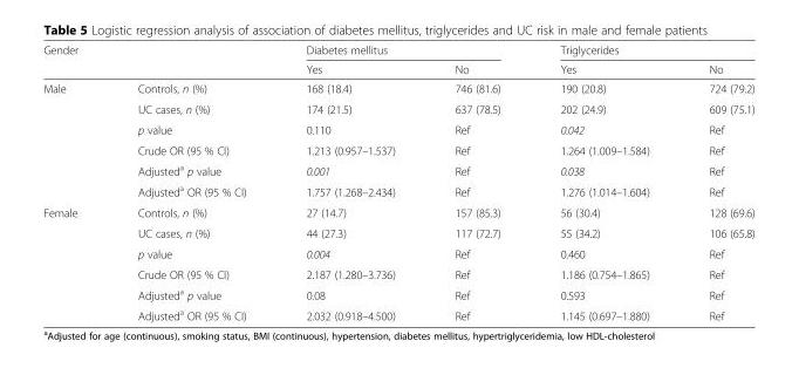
<table><thead><tr><td rowspan="2">Gender</td><td rowspan="2"></td><td colspan="2">Diabetes mellitus</td><td colspan="2">Triglycerides</td></tr><tr><td>Yes</td><td>No</td><td>Yes</td><td>No</td></tr></thead><tbody><tr><td rowspan="6">Male</td><td>Controls, n (%)</td><td>168 (18.4)</td><td>746 (81.6)</td><td>190 (20.8)</td><td>724 (79.2)</td></tr><tr><td>UC cases, n (%)</td><td>174 (21.5)</td><td>637 (78.5)</td><td>202 (24.9)</td><td>609 (75.1)</td></tr><tr><td>p value</td><td>0.110</td><td>Ref</td><td>0.042</td><td>Ref</td></tr><tr><td>Crude OR (95 % CI)</td><td>1.213 (0.957–1.537)</td><td>Ref</td><td>1.264 (1.009–1.584)</td><td>Ref</td></tr><tr><td>Adjusted<sup>a</sup> p value</td><td>0.001</td><td>Ref</td><td>0.038</td><td>Ref</td></tr><tr><td>Adjusted<sup>a</sup> OR (95 % CI)</td><td>1.757 (1.268–2.434)</td><td>Ref</td><td>1.276 (1.014–1.604)</td><td>Ref</td></tr><tr><td rowspan="6">Female</td><td>Controls, n (%)</td><td>27 (14.7)</td><td>157 (85.3)</td><td>56 (30.4)</td><td>128 (69.6)</td></tr><tr><td>UC cases, n (%)</td><td>44 (27.3)</td><td>117 (72.7)</td><td>55 (34.2)</td><td>106 (65.8)</td></tr><tr><td>p value</td><td>0.004</td><td>Ref</td><td>0.460</td><td>Ref</td></tr><tr><td>Crude OR (95 % CI)</td><td>2.187 (1.280–3.736)</td><td>Ref</td><td>1.186 (0.754–1.865)</td><td>Ref</td></tr><tr><td>Adjusted<sup>a</sup> p value</td><td>0.08</td><td>Ref</td><td>0.593</td><td>Ref</td></tr><tr><td>Adjusted<sup>a</sup> OR (95 % CI)</td><td>2.032 (0.918–4.500)</td><td>Ref</td><td>1.145 (0.697–1.880)</td><td>Ref</td></tr></tbody></table>